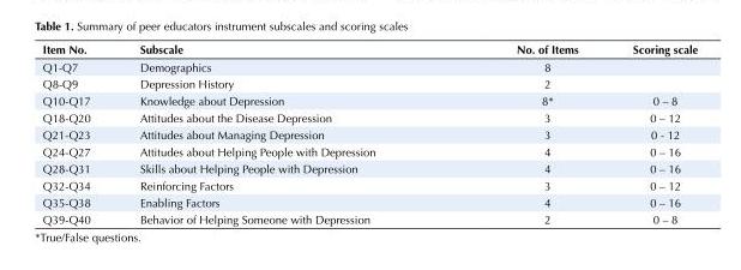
<table><tbody><tr><td>Item No.</td><td>Subscale</td><td>No. of Items</td><td>Scoring scale</td></tr><tr><td>Q1-Q7</td><td>Demographics</td><td>8</td><td></td></tr><tr><td>Q8-Q9</td><td>Depression History</td><td>2</td><td></td></tr><tr><td>Q10-Q17</td><td>Knowledge about Depression</td><td>8*</td><td>0 – 8</td></tr><tr><td>Q18-Q20</td><td>Attitudes about the Disease Depression</td><td>3</td><td>0 – 12</td></tr><tr><td>Q21-Q23</td><td>Attitudes about Managing Depression</td><td>3</td><td>0 - 12</td></tr><tr><td>Q24-Q27</td><td>Attitudes about Helping People with Depression</td><td>4</td><td>0 – 16</td></tr><tr><td>Q28-Q31</td><td>Skills about Helping People with Depression</td><td>4</td><td>0 – 16</td></tr><tr><td>Q32-Q34</td><td>Reinforcing Factors</td><td>3</td><td>0 – 12</td></tr><tr><td>Q35-Q38</td><td>Enabling Factors</td><td>4</td><td>0 – 16</td></tr><tr><td>Q39-Q40</td><td>Behavior of Helping Someone with Depression</td><td>2</td><td>0 – 8</td></tr></tbody></table>